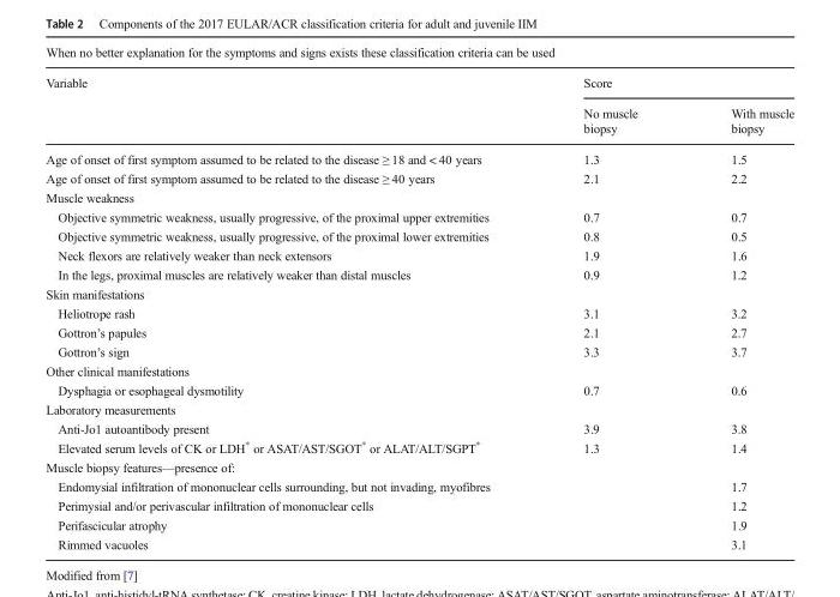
<table><thead><tr><td colspan="3">When no better explanation for the symptoms and signs exists these classification criteria can be used</td></tr><tr><td rowspan="2">Variable</td><td colspan="2">Score</td></tr><tr><td>No muscle biopsy</td><td>With muscle biopsy</td></tr></thead><tbody><tr><td>Age of onset of first symptom assumed to be related to the disease ≥ 18 and &lt; 40 years</td><td>1.3</td><td>1.5</td></tr><tr><td>Age of onset of first symptom assumed to be related to the disease ≥ 40 years</td><td>2.1</td><td>2.2</td></tr><tr><td colspan="3">Muscle weakness</td></tr><tr><td>Objective symmetric weakness, usually progressive, of the proximal upper extremities</td><td>0.7</td><td>0.7</td></tr><tr><td>Objective symmetric weakness, usually progressive, of the proximal lower extremities</td><td>0.8</td><td>0.5</td></tr><tr><td>Neck flexors are relatively weaker than neck extensors</td><td>1.9</td><td>1.6</td></tr><tr><td>In the legs, proximal muscles are relatively weaker than distal muscles</td><td>0.9</td><td>1.2</td></tr><tr><td colspan="3">Skin manifestations</td></tr><tr><td>Heliotrope rash</td><td>3.1</td><td>3.2</td></tr><tr><td>Gottron’s papules</td><td>2.1</td><td>2.7</td></tr><tr><td>Gottron’s sign</td><td>3.3</td><td>3.7</td></tr><tr><td colspan="3">Other clinical manifestations</td></tr><tr><td>Dysphagia or esophageal dysmotility</td><td>0.7</td><td>0.6</td></tr><tr><td colspan="3">Laboratory measurements</td></tr><tr><td>Anti-Jo1 autoantibody present</td><td>3.9</td><td>3.8</td></tr><tr><td>Elevated serum levels of CK or LDH* or ASAT/AST/SGOT* or ALAT/ALT/SGPT*</td><td>1.3</td><td>1.4</td></tr><tr><td colspan="3">Muscle biopsy features—presence of:</td></tr><tr><td>Endomysial infiltration of mononuclear cells surrounding, but not invading, myofibres</td><td></td><td>1.7</td></tr><tr><td>Perimysial and/or perivascular infiltration of mononuclear cells</td><td></td><td>1.2</td></tr><tr><td>Perifascicular atrophy</td><td></td><td>1.9</td></tr><tr><td>Rimmed vacuoles</td><td></td><td>3.1</td></tr></tbody></table>